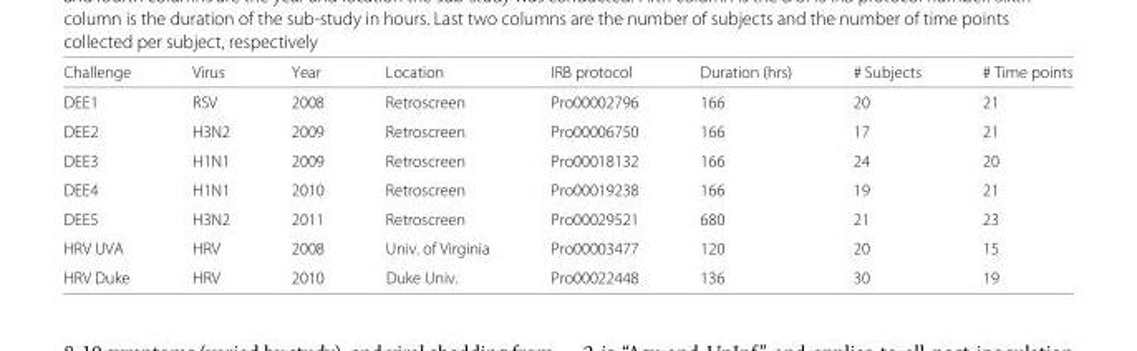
<table><thead><tr><td>Challenge</td><td>Virus</td><td>Year</td><td>Location</td><td>IRB protocol</td><td>Duration (hrs)</td><td># Subjects</td><td># Time points</td></tr></thead><tbody><tr><td>DEE1</td><td>RSV</td><td>2008</td><td>Retroscreen</td><td>Pro00002796</td><td>166</td><td>20</td><td>21</td></tr><tr><td>DEE2</td><td>H3N2</td><td>2009</td><td>Retroscreen</td><td>Pro00006750</td><td>166</td><td>17</td><td>21</td></tr><tr><td>DEE3</td><td>H1N1</td><td>2009</td><td>Retroscreen</td><td>Pro00018132</td><td>166</td><td>24</td><td>20</td></tr><tr><td>DEE4</td><td>H1N1</td><td>2010</td><td>Retroscreen</td><td>Pro00019238</td><td>166</td><td>19</td><td>21</td></tr><tr><td>DEE5</td><td>H3N2</td><td>2011</td><td>Retroscreen</td><td>Pro00029521</td><td>680</td><td>21</td><td>23</td></tr><tr><td>HRV UVA</td><td>HRV</td><td>2008</td><td>Univ. of Virginia</td><td>Pro00003477</td><td>120</td><td>20</td><td>15</td></tr><tr><td>HRV Duke</td><td>HRV</td><td>2010</td><td>Duke Univ.</td><td>Pro00022448</td><td>136</td><td>30</td><td>19</td></tr></tbody></table>